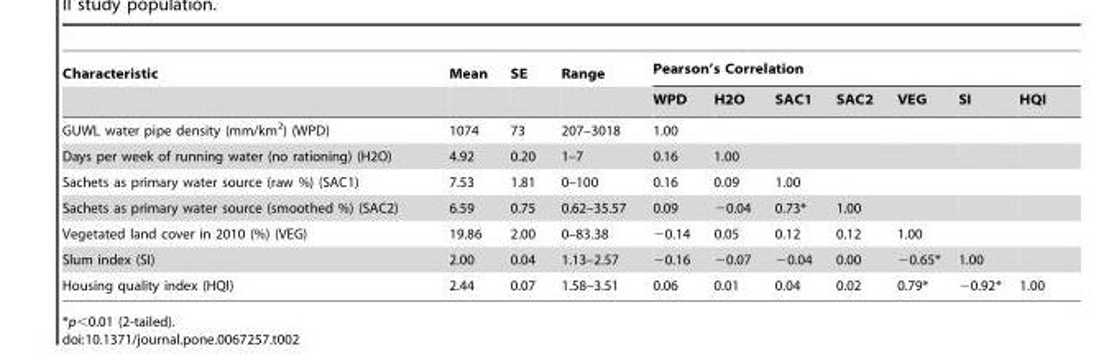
<table><thead><tr><td rowspan="2">Characteristic</td><td rowspan="2">Mean</td><td rowspan="2">SE</td><td rowspan="2">Range</td><td colspan="7">Pearson’s Correlation</td></tr><tr><td>WPD</td><td>H2O</td><td>SAC1</td><td>SAC2</td><td>VEG</td><td>SI</td><td>HQI</td></tr></thead><tbody><tr><td>GUWL water pipe density (mm/km<sup>2</sup>) (WPD)</td><td>1074</td><td>73</td><td>207–3018</td><td>1.00</td><td></td><td></td><td></td><td></td><td></td><td></td></tr><tr><td>Days per week of running water (no rationing) (H2O)</td><td>4.92</td><td>0.20</td><td>1–7</td><td>0.16</td><td>1.00</td><td></td><td></td><td></td><td></td><td></td></tr><tr><td>Sachets as primary water source (raw %) (SAC1)</td><td>7.53</td><td>1.81</td><td>0–100</td><td>0.16</td><td>0.09</td><td>1.00</td><td></td><td></td><td></td><td></td></tr><tr><td>Sachets as primary water source (smoothed %) (SAC2)</td><td>6.59</td><td>0.75</td><td>0.62–35.57</td><td>0.09</td><td>−0.04</td><td>0.73*</td><td>1.00</td><td></td><td></td><td></td></tr><tr><td>Vegetated land cover in 2010 (%) (VEG)</td><td>19.86</td><td>2.00</td><td>0–83.38</td><td>−0.14</td><td>0.05</td><td>0.12</td><td>0.12</td><td>1.00</td><td></td><td></td></tr><tr><td>Slum index (SI)</td><td>2.00</td><td>0.04</td><td>1.13–2.57</td><td>−0.16</td><td>−0.07</td><td>−0.04</td><td>0.00</td><td>−0.65*</td><td>1.00</td><td></td></tr><tr><td>Housing quality index (HQI)</td><td>2.44</td><td>0.07</td><td>1.58–3.51</td><td>0.06</td><td>0.01</td><td>0.04</td><td>0.02</td><td>0.79*</td><td>−0.92*</td><td>1.00</td></tr></tbody></table>